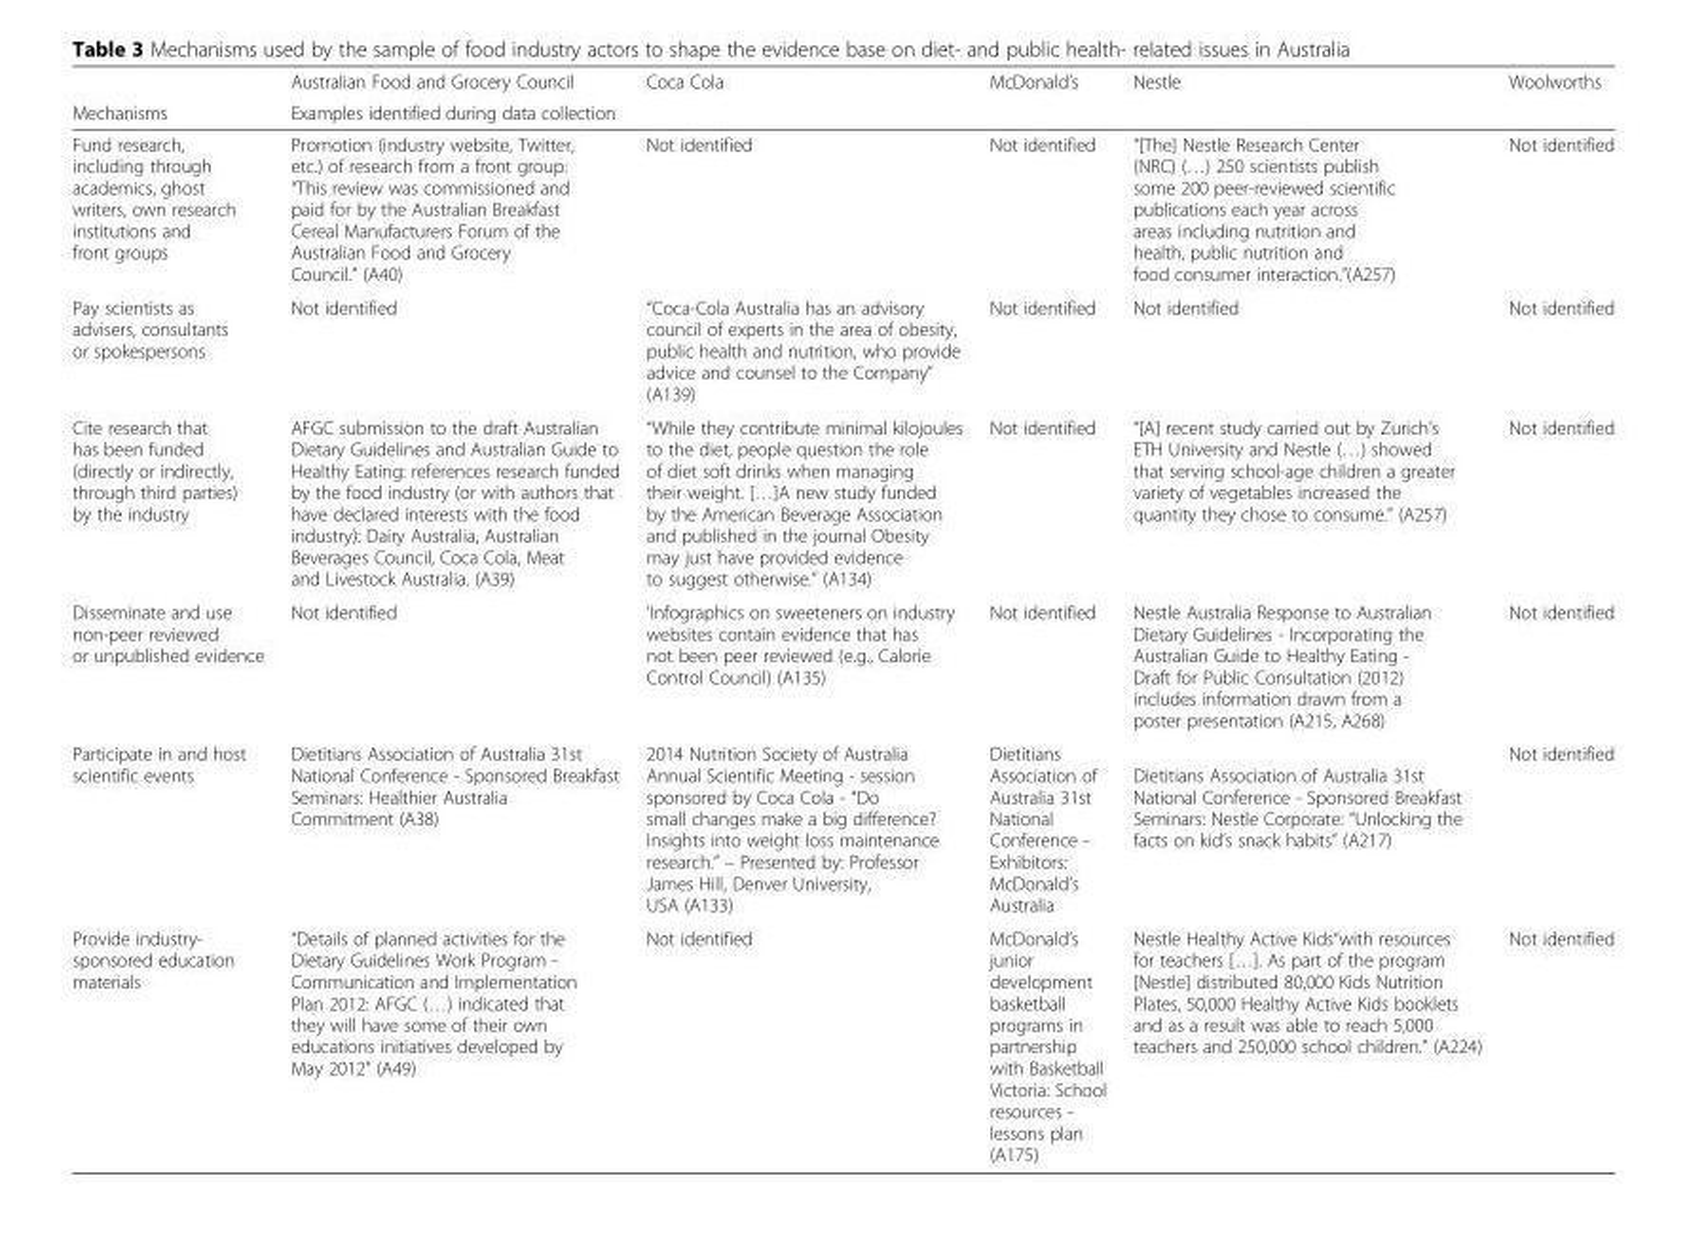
<table><thead><tr><td rowspan="2">Mechanisms</td><td>Australian Food and Grocery Council</td><td>Coca Cola</td><td>McDonald’s</td><td>Nestle</td><td>Woolworths</td></tr><tr><td colspan="5">Examples identified during data collection</td></tr></thead><tbody><tr><td>Fund research, including through academics, ghost writers, own research institutions and front groups</td><td>Promotion (industry website, Twitter, etc.) of research from a front group: “This review was commissioned and paid for by the Australian Breakfast Cereal Manufacturers Forum of the Australian Food and Grocery Council.” (A40)</td><td>Not identified</td><td>Not identified</td><td>“[The] Nestle Research Center (NRC) (…) 250 scientists publish some 200 peer-reviewed scientific publications each year across areas including nutrition and health, public nutrition and food consumer interaction.”(A257)</td><td>Not identified</td></tr><tr><td>Pay scientists as advisers, consultants or spokespersons</td><td>Not identified</td><td>“Coca-Cola Australia has an advisory council of experts in the area of obesity, public health and nutrition, who provide advice and counsel to the Company” (A139)</td><td>Not identified</td><td>Not identified</td><td>Not identified</td></tr><tr><td>Cite research that has been funded (directly or indirectly, through third parties) by the industry</td><td>AFGC submission to the draft Australian Dietary Guidelines and Australian Guide to Healthy Eating: references research funded by the food industry (or with authors that have declared interests with the food industry): Dairy Australia, Australian Beverages Council, Coca Cola, Meat and Livestock Australia. (A39)</td><td>“While they contribute minimal kilojoules to the diet, people question the role of diet soft drinks when managing their weight. […]A new study funded by the American Beverage Association and published in the journal Obesity may just have provided evidence to suggest otherwise.” (A134)</td><td>Not identified</td><td>“[A] recent study carried out by Zurich’s ETH University and Nestle (…) showed that serving school-age children a greater variety of vegetables increased the quantity they chose to consume.” (A257)</td><td>Not identified</td></tr><tr><td>Disseminate and use non-peer reviewed or unpublished evidence</td><td>Not identified</td><td>&#x27;Infographics on sweeteners on industry websites contain evidence that has not been peer reviewed (e.g., Calorie Control Council) (A135)</td><td>Not identified</td><td>Nestle Australia Response to Australian Dietary Guidelines - Incorporating the Australian Guide to Healthy Eating - Draft for Public Consultation (2012) includes information drawn from a poster presentation (A215, A268)</td><td>Not identified</td></tr><tr><td>Participate in and host scientific events</td><td>Dietitians Association of Australia 31st National Conference - Sponsored Breakfast Seminars: Healthier Australia Commitment (A38)</td><td>2014 Nutrition Society of Australia Annual Scientific Meeting - session sponsored by Coca Cola - “Do small changes make a big difference? Insights into weight loss maintenance research.” – Presented by: Professor James Hill, Denver University, USA (A133)</td><td>Dietitians Association of Australia 31st National Conference - Exhibitors: McDonald’s Australia</td><td>Dietitians Association of Australia 31st National Conference - Sponsored Breakfast Seminars: Nestle Corporate: “Unlocking the facts on kid’s snack habits” (A217)</td><td>Not identified</td></tr><tr><td>Provide industry- sponsored education materials</td><td>“Details of planned activities for the Dietary Guidelines Work Program - Communication and Implementation Plan 2012: AFGC (…) indicated that they will have some of their own educations initiatives developed by May 2012” (A49)</td><td>Not identified</td><td>McDonald’s junior development basketball programs in partnership with Basketball Victoria: School resources - lessons plan (A175)</td><td>Nestle Healthy Active Kids“with resources for teachers […]. As part of the program [Nestle] distributed 80,000 Kids Nutrition Plates, 50,000 Healthy Active Kids booklets and as a result was able to reach 5,000 teachers and 250,000 school children.” (A224)</td><td>Not identified</td></tr></tbody></table>